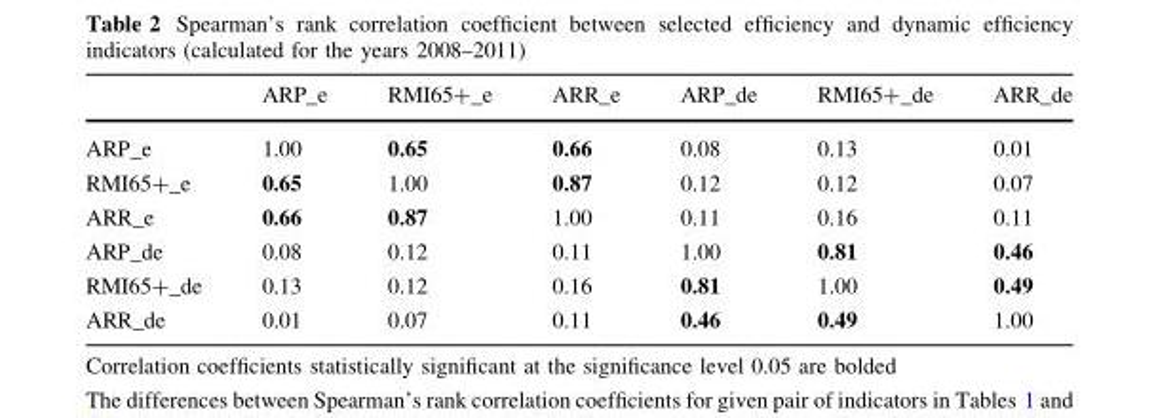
<table><thead><tr><td></td><td>ARP_e</td><td>RMI65+_e</td><td>ARR_e</td><td>ARP_de</td><td>RMI65+_de</td><td>ARR_de</td></tr></thead><tbody><tr><td>ARP_e</td><td>1.00</td><td>0.65</td><td>0.66</td><td>0.08</td><td>0.13</td><td>0.01</td></tr><tr><td>RMI65+_e</td><td>0.65</td><td>1.00</td><td>0.87</td><td>0.12</td><td>0.12</td><td>0.07</td></tr><tr><td>ARR_e</td><td>0.66</td><td>0.87</td><td>1.00</td><td>0.11</td><td>0.16</td><td>0.11</td></tr><tr><td>ARP_de</td><td>0.08</td><td>0.12</td><td>0.11</td><td>1.00</td><td>0.81</td><td>0.46</td></tr><tr><td>RMI65+_de</td><td>0.13</td><td>0.12</td><td>0.16</td><td>0.81</td><td>1.00</td><td>0.49</td></tr><tr><td>ARR_de</td><td>0.01</td><td>0.07</td><td>0.11</td><td>0.46</td><td>0.49</td><td>1.00</td></tr></tbody></table>